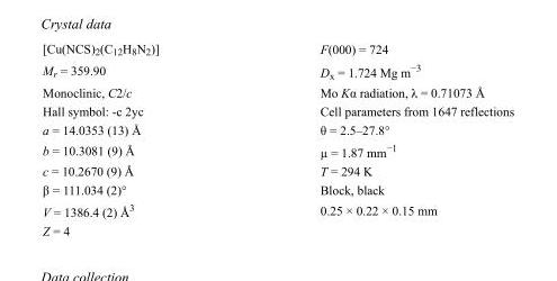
<table><tbody><tr><td>[Cu(NCS)<sub>2</sub>(C<sub>12</sub>H<sub>8</sub>N<sub>2</sub>)]</td><td>F(000) = 724</td></tr><tr><td>M<sub>r</sub> = 359.90</td><td>D<sub>x</sub> = 1.724 Mg m<sup>−3</sup></td></tr><tr><td>Monoclinic, C2/c</td><td>Mo Kα radiation, λ = 0.71073 Å</td></tr><tr><td>Hall symbol: -c 2yc</td><td>Cell parameters from 1647 reflections</td></tr><tr><td>a = 14.0353 (13) Å</td><td>θ = 2.5–27.8°</td></tr><tr><td>b = 10.3081 (9) Å</td><td>µ = 1.87 mm<sup>−1</sup></td></tr><tr><td>c = 10.2670 (9) Å</td><td>T = 294 K</td></tr><tr><td>β = 111.034 (2)°</td><td>Block, black</td></tr><tr><td>V = 1386.4 (2) Å<sup>3</sup></td><td>0.25 × 0.22 × 0.15 mm</td></tr><tr><td>Z = 4</td><td></td></tr></tbody></table>